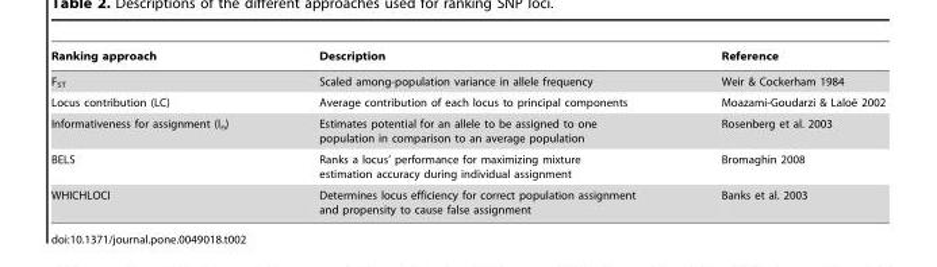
<table><thead><tr><td>Ranking approach</td><td>Description</td><td>Reference</td></tr></thead><tbody><tr><td>F<sub>ST</sub></td><td>Scaled among-population variance in allele frequency</td><td>Weir &amp; Cockerham 1984</td></tr><tr><td>Locus contribution (LC)</td><td>Average contribution of each locus to principal components</td><td>Moazami-Goudarzi &amp; Laloe¨ 2002</td></tr><tr><td>Informativeness for assignment (I<sub>n</sub>)</td><td>Estimates potential for an allele to be assigned to one population in comparison to an average population</td><td>Rosenberg et al. 2003</td></tr><tr><td>BELS</td><td>Ranks a locus’ performance for maximizing mixture estimation accuracy during individual assignment</td><td>Bromaghin 2008</td></tr><tr><td>WHICHLOCI</td><td>Determines locus efficiency for correct population assignment and propensity to cause false assignment</td><td>Banks et al. 2003</td></tr></tbody></table>